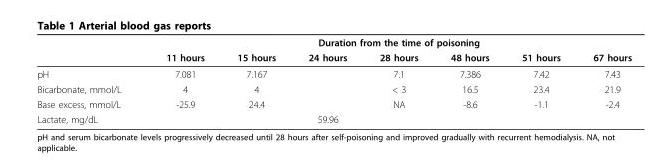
<table><thead><tr><td rowspan="2"></td><td colspan="7">Duration from the time of poisoning</td></tr><tr><td>11 hours</td><td>15 hours</td><td>24 hours</td><td>28 hours</td><td>48 hours</td><td>51 hours</td><td>67 hours</td></tr></thead><tbody><tr><td>pH</td><td>7.081</td><td>7.167</td><td></td><td>7.1</td><td>7.386</td><td>7.42</td><td>7.43</td></tr><tr><td>Bicarbonate, mmol/L</td><td>4</td><td>4</td><td></td><td>&lt; 3</td><td>16.5</td><td>23.4</td><td>21.9</td></tr><tr><td>Base excess, mmol/L</td><td>-25.9</td><td>24.4</td><td></td><td>NA</td><td>-8.6</td><td>-1.1</td><td>-2.4</td></tr><tr><td>Lactate, mg/dL</td><td></td><td></td><td>59.96</td><td></td><td></td><td></td><td></td></tr></tbody></table>